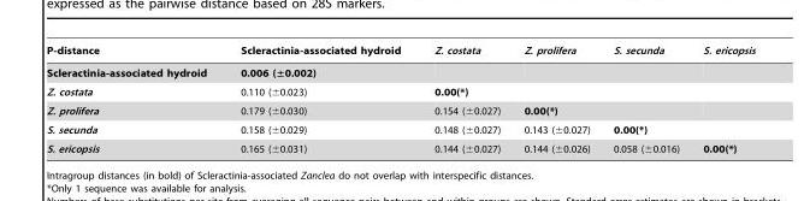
<table><thead><tr><td>P-distance</td><td>Scleractinia-associated hydroid</td><td>Z. costata</td><td>Z. prolifera</td><td>S. secunda</td><td>S. ericopsis</td></tr></thead><tbody><tr><td>Scleractinia-associated hydroid</td><td>0.006 (±0.002)</td><td></td><td></td><td></td><td></td></tr><tr><td>Z. costata</td><td>0.110 (±0.023)</td><td>0.00(*)</td><td></td><td></td><td></td></tr><tr><td>Z. prolifera</td><td>0.179 (±0.030)</td><td>0.154 (±0.027)</td><td>0.00(*)</td><td></td><td></td></tr><tr><td>S. secunda</td><td>0.158 (±0.029)</td><td>0.148 (±0.027)</td><td>0.143 (±0.027)</td><td>0.00(*)</td><td></td></tr><tr><td>S. ericopsis</td><td>0.165 (±0.031)</td><td>0.144 (±0.027)</td><td>0.144 (±0.026)</td><td>0.058 (±0.016)</td><td>0.00(*)</td></tr></tbody></table>